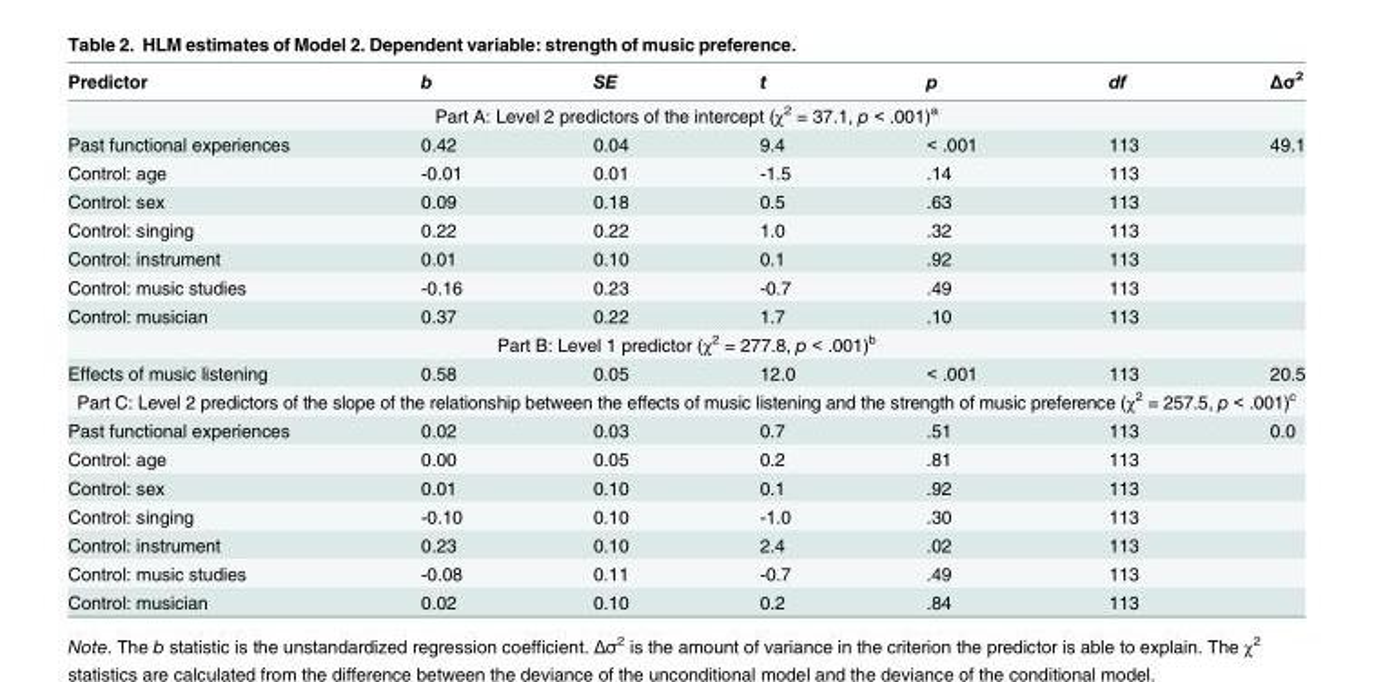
<table><thead><tr><td>Predictor</td><td>b</td><td>SE</td><td>t</td><td>p</td><td>df</td><td>Δσ<sup>2</sup></td></tr></thead><tbody><tr><td colspan="7">Part A: Level 2 predictors of the intercept (χ<sup>2</sup> = 37.1, p &lt; .001)<sup>a</sup></td></tr><tr><td>Past functional experiences</td><td>0.42</td><td>0.04</td><td>9.4</td><td>&lt; .001</td><td>113</td><td>49.1</td></tr><tr><td>Control: age</td><td>-0.01</td><td>0.01</td><td>-1.5</td><td>.14</td><td>113</td><td></td></tr><tr><td>Control: sex</td><td>0.09</td><td>0.18</td><td>0.5</td><td>.63</td><td>113</td><td></td></tr><tr><td>Control: singing</td><td>0.22</td><td>0.22</td><td>1.0</td><td>.32</td><td>113</td><td></td></tr><tr><td>Control: instrument</td><td>0.01</td><td>0.10</td><td>0.1</td><td>.92</td><td>113</td><td></td></tr><tr><td>Control: music studies</td><td>-0.16</td><td>0.23</td><td>-0.7</td><td>.49</td><td>113</td><td></td></tr><tr><td>Control: musician</td><td>0.37</td><td>0.22</td><td>1.7</td><td>.10</td><td>113</td><td></td></tr><tr><td colspan="7">Part B: Level 1 predictor (χ<sup>2</sup> = 277.8, p &lt; .001)<sup>b</sup></td></tr><tr><td>Effects of music listening</td><td>0.58</td><td>0.05</td><td>12.0</td><td>&lt; .001</td><td>113</td><td>20.5</td></tr><tr><td colspan="7">Part C: Level 2 predictors of the slope of the relationship between the effects of music listening and the strength of music preference (χ<sup>2</sup> = 257.5, p &lt; .001)<sup>c</sup></td></tr><tr><td>Past functional experiences</td><td>0.02</td><td>0.03</td><td>0.7</td><td>.51</td><td>113</td><td>0.0</td></tr><tr><td>Control: age</td><td>0.00</td><td>0.05</td><td>0.2</td><td>.81</td><td>113</td><td></td></tr><tr><td>Control: sex</td><td>0.01</td><td>0.10</td><td>0.1</td><td>.92</td><td>113</td><td></td></tr><tr><td>Control: singing</td><td>-0.10</td><td>0.10</td><td>-1.0</td><td>.30</td><td>113</td><td></td></tr><tr><td>Control: instrument</td><td>0.23</td><td>0.10</td><td>2.4</td><td>.02</td><td>113</td><td></td></tr><tr><td>Control: music studies</td><td>-0.08</td><td>0.11</td><td>-0.7</td><td>.49</td><td>113</td><td></td></tr><tr><td>Control: musician</td><td>0.02</td><td>0.10</td><td>0.2</td><td>.84</td><td>113</td><td></td></tr></tbody></table>